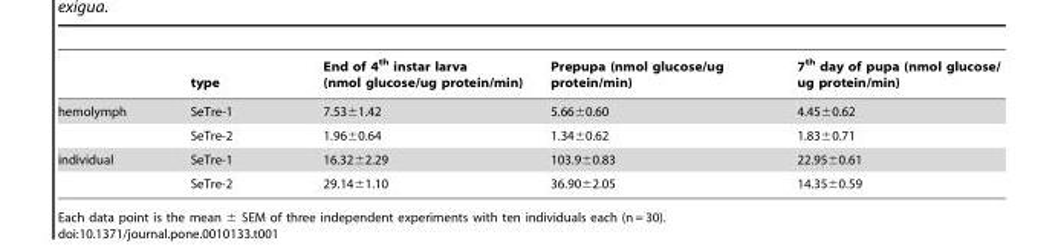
<table><thead><tr><td></td><td>type</td><td>End of 4<sup>th</sup> instar larva (nmol glucose/ug protein/min)</td><td>Prepupa (nmol glucose/ug protein/min)</td><td>7<sup>th</sup> day of pupa (nmol glucose/ ug protein/min)</td></tr></thead><tbody><tr><td rowspan="2">hemolymph</td><td>SeTre-1</td><td>7.53±1.42</td><td>5.66±0.60</td><td>4.45±0.62</td></tr><tr><td>SeTre-2</td><td>1.96±0.64</td><td>1.34±0.62</td><td>1.83±0.71</td></tr><tr><td rowspan="2">individual</td><td>SeTre-1</td><td>16.32±2.29</td><td>103.9±0.83</td><td>22.95±0.61</td></tr><tr><td>SeTre-2</td><td>29.14±1.10</td><td>36.90±2.05</td><td>14.35±0.59</td></tr></tbody></table>